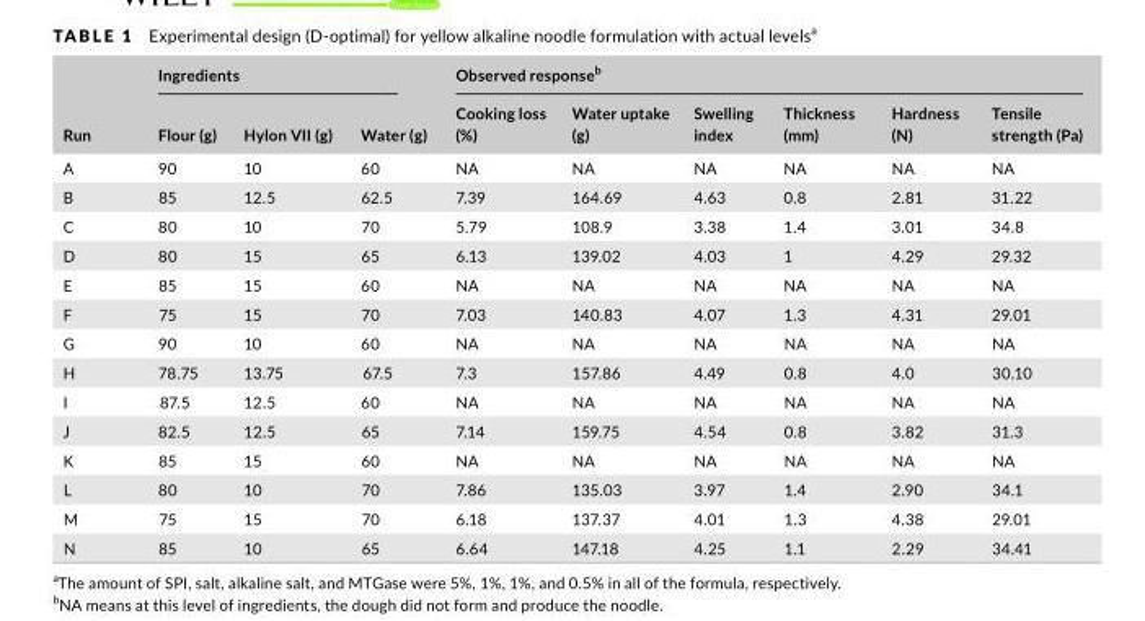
<table><thead><tr><td rowspan="2">Run</td><td colspan="3">Ingredients</td><td colspan="6">Observed response<sup>b</sup></td></tr><tr><td>Flour (g)</td><td>Hylon VII (g)</td><td>Water (g)</td><td>Cooking loss (%)</td><td>Water uptake (g)</td><td>Swelling index</td><td>Thickness (mm)</td><td>Hardness (N)</td><td>Tensile strength (Pa)</td></tr></thead><tbody><tr><td>A</td><td>90</td><td>10</td><td>60</td><td>NA</td><td>NA</td><td>NA</td><td>NA</td><td>NA</td><td>NA</td></tr><tr><td>B</td><td>85</td><td>12.5</td><td>62.5</td><td>7.39</td><td>164.69</td><td>4.63</td><td>0.8</td><td>2.81</td><td>31.22</td></tr><tr><td>C</td><td>80</td><td>10</td><td>70</td><td>5.79</td><td>108.9</td><td>3.38</td><td>1.4</td><td>3.01</td><td>34.8</td></tr><tr><td>D</td><td>80</td><td>15</td><td>65</td><td>6.13</td><td>139.02</td><td>4.03</td><td>1</td><td>4.29</td><td>29.32</td></tr><tr><td>E</td><td>85</td><td>15</td><td>60</td><td>NA</td><td>NA</td><td>NA</td><td>NA</td><td>NA</td><td>NA</td></tr><tr><td>F</td><td>75</td><td>15</td><td>70</td><td>7.03</td><td>140.83</td><td>4.07</td><td>1.3</td><td>4.31</td><td>29.01</td></tr><tr><td>G</td><td>90</td><td>10</td><td>60</td><td>NA</td><td>NA</td><td>NA</td><td>NA</td><td>NA</td><td>NA</td></tr><tr><td>H</td><td>78.75</td><td>13.75</td><td>67.5</td><td>7.3</td><td>157.86</td><td>4.49</td><td>0.8</td><td>4.0</td><td>30.10</td></tr><tr><td>I</td><td>87.5</td><td>12.5</td><td>60</td><td>NA</td><td>NA</td><td>NA</td><td>NA</td><td>NA</td><td>NA</td></tr><tr><td>J</td><td>82.5</td><td>12.5</td><td>65</td><td>7.14</td><td>159.75</td><td>4.54</td><td>0.8</td><td>3.82</td><td>31.3</td></tr><tr><td>K</td><td>85</td><td>15</td><td>60</td><td>NA</td><td>NA</td><td>NA</td><td>NA</td><td>NA</td><td>NA</td></tr><tr><td>L</td><td>80</td><td>10</td><td>70</td><td>7.86</td><td>135.03</td><td>3.97</td><td>1.4</td><td>2.90</td><td>34.1</td></tr><tr><td>M</td><td>75</td><td>15</td><td>70</td><td>6.18</td><td>137.37</td><td>4.01</td><td>1.3</td><td>4.38</td><td>29.01</td></tr><tr><td>N</td><td>85</td><td>10</td><td>65</td><td>6.64</td><td>147.18</td><td>4.25</td><td>1.1</td><td>2.29</td><td>34.41</td></tr></tbody></table>